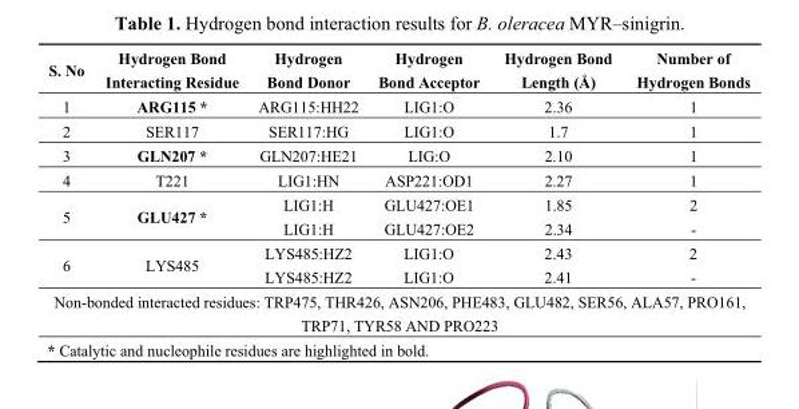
<table><thead><tr><td>S. No</td><td>Hydrogen Bond Interacting Residue</td><td>Hydrogen Bond Donor</td><td>Hydrogen Bond Acceptor</td><td>Hydrogen Bond Length (Å)</td><td>Number of Hydrogen Bonds</td></tr></thead><tbody><tr><td>1</td><td>ARG115 *</td><td>ARG115:HH22</td><td>LIG1:O</td><td>2.36</td><td>1</td></tr><tr><td>2</td><td>SER117</td><td>SER117:HG</td><td>LIG1:O</td><td>1.7</td><td>1</td></tr><tr><td>3</td><td>GLN207 *</td><td>GLN207:HE21</td><td>LIG:O</td><td>2.10</td><td>1</td></tr><tr><td>4</td><td>T221</td><td>LIG1:HN</td><td>ASP221:OD1</td><td>2.27</td><td>1</td></tr><tr><td rowspan="2">5</td><td rowspan="2">GLU427 *</td><td>LIG1:H</td><td>GLU427:OE1</td><td>1.85</td><td>2</td></tr><tr><td>LIG1:H</td><td>GLU427:OE2</td><td>2.34</td><td>-</td></tr><tr><td rowspan="2">6</td><td rowspan="2">LYS485</td><td>LYS485:HZ2</td><td>LIG1:O</td><td>2.43</td><td>2</td></tr><tr><td>LYS485:HZ2</td><td>LIG1:O</td><td>2.41</td><td>-</td></tr><tr><td colspan="6">Non-bonded interacted residues: TRP475, THR426, ASN206, PHE483, GLU482, SER56, ALA57, PRO161, TRP71, TYR58 AND PRO223</td></tr><tr><td colspan="6">* Catalytic and nucleophile residues are highlighted in bold.</td></tr></tbody></table>